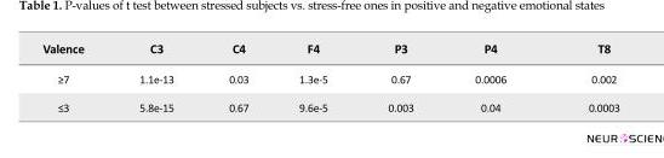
<table><thead><tr><td>Valence</td><td>C3</td><td>C4</td><td>F4</td><td>P3</td><td>P4</td><td>T8</td></tr></thead><tbody><tr><td>≥7</td><td>1.1e-13</td><td>0.03</td><td>1.3e-5</td><td>0.67</td><td>0.0006</td><td>0.002</td></tr><tr><td>≤3</td><td>5.8e-15</td><td>0.67</td><td>9.6e-5</td><td>0.003</td><td>0.04</td><td>0.0003</td></tr></tbody></table>